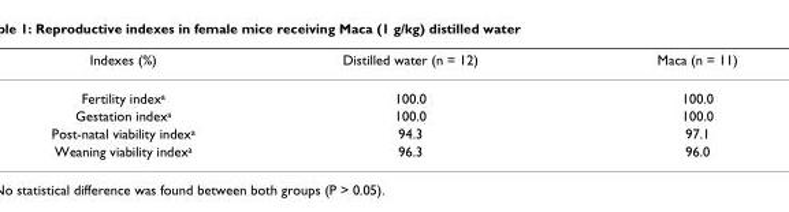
<table><thead><tr><td>Indexes (%)</td><td>Distilled water (n = 12)</td><td>Maca (n = 11)</td></tr></thead><tbody><tr><td>Fertility index<sup>a</sup></td><td>100.0</td><td>100.0</td></tr><tr><td>Gestation index<sup>a</sup></td><td>100.0</td><td>100.0</td></tr><tr><td>Post-natal viability index<sup>a</sup></td><td>94.3</td><td>97.1</td></tr><tr><td>Weaning viability index<sup>a</sup></td><td>96.3</td><td>96.0</td></tr></tbody></table>